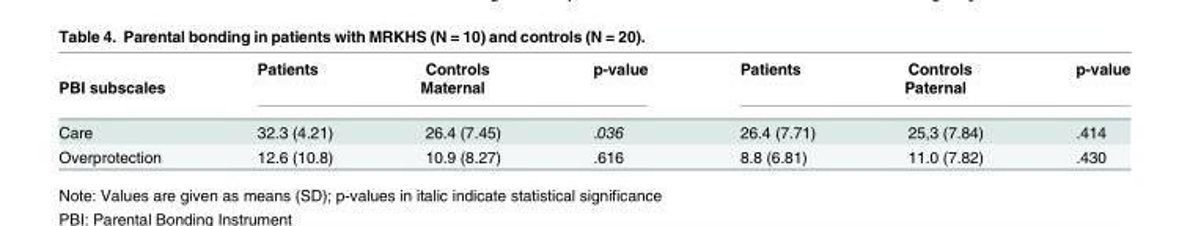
<table><thead><tr><td rowspan="2">PBI subscales</td><td>Patients</td><td>Controls</td><td>p-value</td><td>Patients</td><td>Controls</td><td>p-value</td></tr><tr><td colspan="3">Maternal</td><td colspan="3">Paternal</td></tr></thead><tbody><tr><td>Care</td><td>32.3 (4.21)</td><td>26.4 (7.45)</td><td>.036</td><td>26.4 (7.71)</td><td>25,3 (7.84)</td><td>.414</td></tr><tr><td>Overprotection</td><td>12.6 (10.8)</td><td>10.9 (8.27)</td><td>.616</td><td>8.8 (6.81)</td><td>11.0 (7.82)</td><td>.430</td></tr></tbody></table>